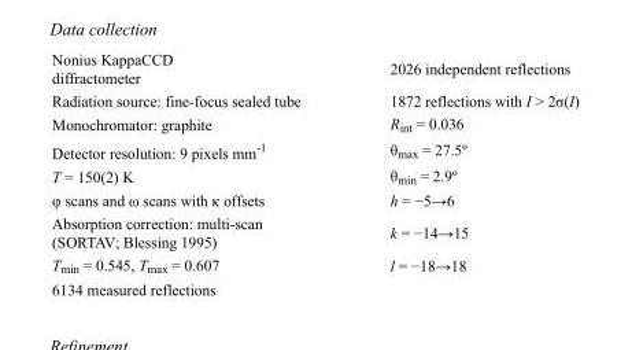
<table><tbody><tr><td>Nonius KappaCCD diffractometer</td><td>2026 independent reflections</td></tr><tr><td>Radiation source: fine-focus sealed tube</td><td>1872 reflections with I &gt; 2σ(I)</td></tr><tr><td>Monochromator: graphite</td><td>R<sub>int</sub> = 0.036</td></tr><tr><td>Detector resolution: 9 pixels mm<sup>-1</sup></td><td>θ<sub>max</sub> = 27.5º</td></tr><tr><td>T = 150(2) K</td><td>θ<sub>min</sub> = 2.9º</td></tr><tr><td>φ scans and ω scans with κ offsets</td><td>h = −5→6</td></tr><tr><td>Absorption correction: multi-scan (SORTAV; Blessing 1995)</td><td>k = −14→15</td></tr><tr><td>T<sub>min</sub> = 0.545, T<sub>max</sub> = 0.607</td><td>l = −18→18</td></tr><tr><td>6134 measured reflections</td><td></td></tr></tbody></table>